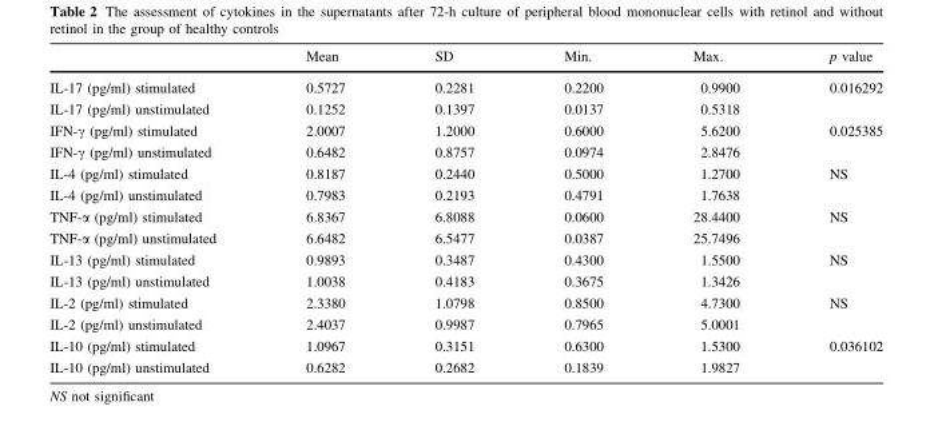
<table><thead><tr><td></td><td>Mean</td><td>SD</td><td>Min.</td><td>Max.</td><td>p value</td></tr></thead><tbody><tr><td>IL-17 (pg/ml) stimulated</td><td>0.5727</td><td>0.2281</td><td>0.2200</td><td>0.9900</td><td rowspan="2">0.016292</td></tr><tr><td>IL-17 (pg/ml) unstimulated</td><td>0.1252</td><td>0.1397</td><td>0.0137</td><td>0.5318</td></tr><tr><td>IFN-γ (pg/ml) stimulated</td><td>2.0007</td><td>1.2000</td><td>0.6000</td><td>5.6200</td><td rowspan="2">0.025385</td></tr><tr><td>IFN-γ (pg/ml) unstimulated</td><td>0.6482</td><td>0.8757</td><td>0.0974</td><td>2.8476</td></tr><tr><td>IL-4 (pg/ml) stimulated</td><td>0.8187</td><td>0.2440</td><td>0.5000</td><td>1.2700</td><td rowspan="2">NS</td></tr><tr><td>IL-4 (pg/ml) unstimulated</td><td>0.7983</td><td>0.2193</td><td>0.4791</td><td>1.7638</td></tr><tr><td>TNF-α (pg/ml) stimulated</td><td>6.8367</td><td>6.8088</td><td>0.0600</td><td>28.4400</td><td rowspan="2">NS</td></tr><tr><td>TNF-α (pg/ml) unstimulated</td><td>6.6482</td><td>6.5477</td><td>0.0387</td><td>25.7496</td></tr><tr><td>IL-13 (pg/ml) stimulated</td><td>0.9893</td><td>0.3487</td><td>0.4300</td><td>1.5500</td><td rowspan="2">NS</td></tr><tr><td>IL-13 (pg/ml) unstimulated</td><td>1.0038</td><td>0.4183</td><td>0.3675</td><td>1.3426</td></tr><tr><td>IL-2 (pg/ml) stimulated</td><td>2.3380</td><td>1.0798</td><td>0.8500</td><td>4.7300</td><td rowspan="2">NS</td></tr><tr><td>IL-2 (pg/ml) unstimulated</td><td>2.4037</td><td>0.9987</td><td>0.7965</td><td>5.0001</td></tr><tr><td>IL-10 (pg/ml) stimulated</td><td>1.0967</td><td>0.3151</td><td>0.6300</td><td>1.5300</td><td rowspan="2">0.036102</td></tr><tr><td>IL-10 (pg/ml) unstimulated</td><td>0.6282</td><td>0.2682</td><td>0.1839</td><td>1.9827</td></tr></tbody></table>